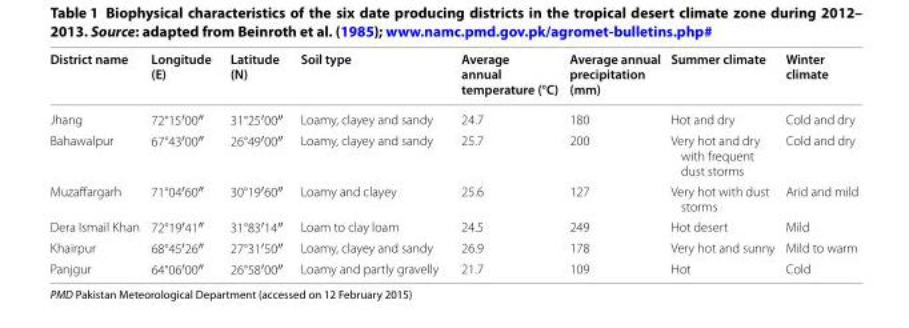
<table><thead><tr><td>District name</td><td>Longitude (E)</td><td>Latitude (N)</td><td>Soil type</td><td>Average annual temperature (°C)</td><td>Average annual precipitation (mm)</td><td>Summer climate</td><td>Winter climate</td></tr></thead><tbody><tr><td>Jhang</td><td>72°15′00″</td><td>31°25′00″</td><td>Loamy, clayey and sandy</td><td>24.7</td><td>180</td><td>Hot and dry</td><td>Cold and dry</td></tr><tr><td>Bahawalpur</td><td>67°43′00″</td><td>26°49′00″</td><td>Loamy, clayey and sandy</td><td>25.7</td><td>200</td><td>Very hot and dry with frequent dust storms</td><td>Cold and dry</td></tr><tr><td>Muzaffargarh</td><td>71°04′60″</td><td>30°19′60″</td><td>Loamy and clayey</td><td>25.6</td><td>127</td><td>Very hot with dust storms</td><td>Arid and mild</td></tr><tr><td>Dera Ismail Khan</td><td>72°19′41″</td><td>31°83′14″</td><td>Loam to clay loam</td><td>24.5</td><td>249</td><td>Hot desert</td><td>Mild</td></tr><tr><td>Khairpur</td><td>68°45′26″</td><td>27°31′50″</td><td>Loamy, clayey and sandy</td><td>26.9</td><td>178</td><td>Very hot and sunny</td><td>Mild to warm</td></tr><tr><td>Panjgur</td><td>64°06′00″</td><td>26°58′00″</td><td>Loamy and partly gravelly</td><td>21.7</td><td>109</td><td>Hot</td><td>Cold</td></tr></tbody></table>